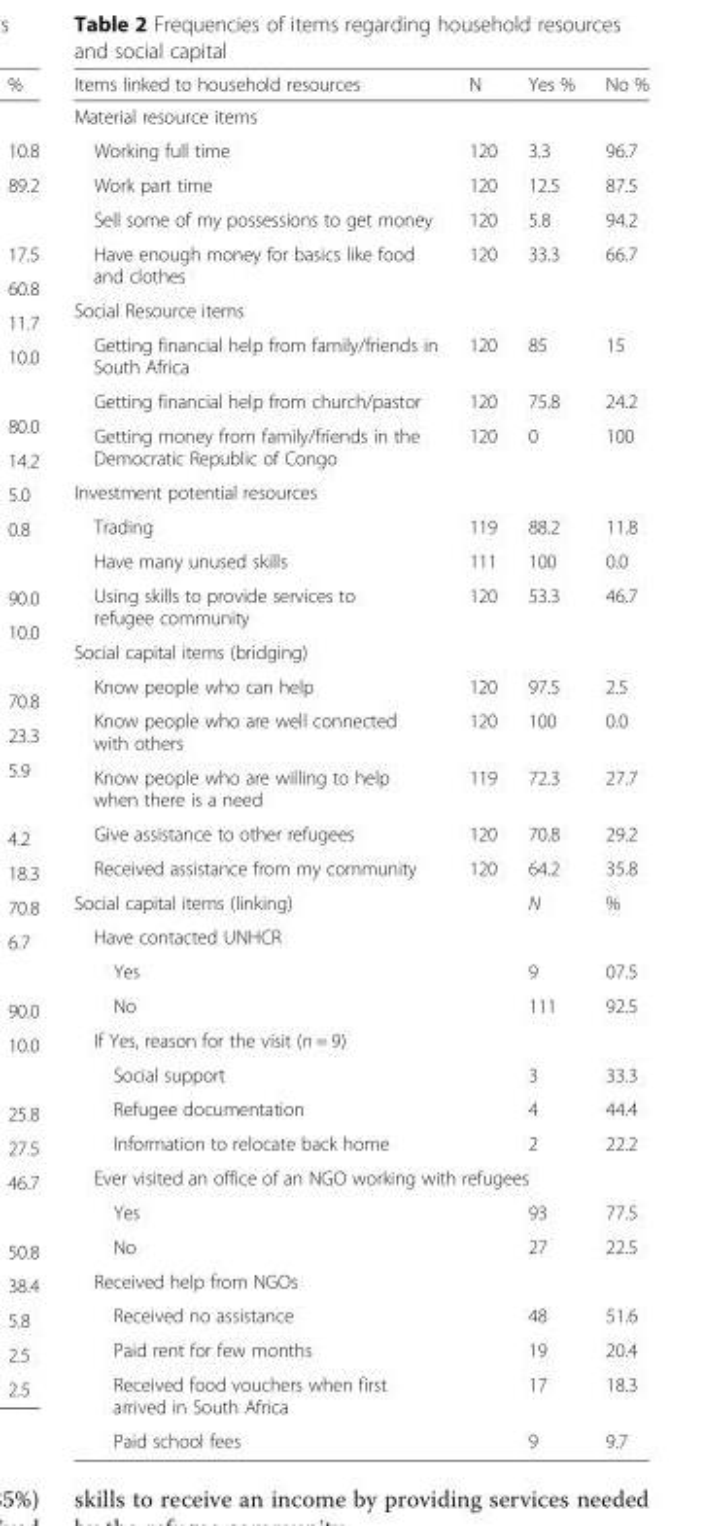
<table><thead><tr><td>Items linked to household resources</td><td>N</td><td>Yes %</td><td>No %</td></tr></thead><tbody><tr><td colspan="4">Material resource items</td></tr><tr><td>Working full time</td><td>120</td><td>3.3</td><td>96.7</td></tr><tr><td>Work part time</td><td>120</td><td>12.5</td><td>87.5</td></tr><tr><td>Sell some of my possessions to get money</td><td>120</td><td>5.8</td><td>94.2</td></tr><tr><td>Have enough money for basics like food and clothes</td><td>120</td><td>33.3</td><td>66.7</td></tr><tr><td colspan="4">Social Resource items</td></tr><tr><td>Getting financial help from family/friends in South Africa</td><td>120</td><td>85</td><td>15</td></tr><tr><td>Getting financial help from church/pastor</td><td>120</td><td>75.8</td><td>24.2</td></tr><tr><td>Getting money from family/friends in the Democratic Republic of Congo</td><td>120</td><td>0</td><td>100</td></tr><tr><td colspan="4">Investment potential resources</td></tr><tr><td>Trading</td><td>119</td><td>88.2</td><td>11.8</td></tr><tr><td>Have many unused skills</td><td>111</td><td>100</td><td>0.0</td></tr><tr><td>Using skills to provide services to refugee community</td><td>120</td><td>53.3</td><td>46.7</td></tr><tr><td colspan="4">Social capital items (bridging)</td></tr><tr><td>Know people who can help</td><td>120</td><td>97.5</td><td>2.5</td></tr><tr><td>Know people who are well connected with others</td><td>120</td><td>100</td><td>0.0</td></tr><tr><td>Know people who are willing to help when there is a need</td><td>119</td><td>72.3</td><td>27.7</td></tr><tr><td>Give assistance to other refugees</td><td>120</td><td>70.8</td><td>29.2</td></tr><tr><td>Received assistance from my community</td><td>120</td><td>64.2</td><td>35.8</td></tr><tr><td colspan="2">Social capital items (linking)</td><td>N</td><td>%</td></tr><tr><td colspan="4">Have contacted UNHCR</td></tr><tr><td colspan="2">Yes</td><td>9</td><td>07.5</td></tr><tr><td colspan="2">No</td><td>111</td><td>92.5</td></tr><tr><td colspan="4">If Yes, reason for the visit (n = 9)</td></tr><tr><td colspan="2">Social support</td><td>3</td><td>33.3</td></tr><tr><td colspan="2">Refugee documentation</td><td>4</td><td>44.4</td></tr><tr><td colspan="2">Information to relocate back home</td><td>2</td><td>22.2</td></tr><tr><td colspan="4">Ever visited an office of an NGO working with refugees</td></tr><tr><td colspan="2">Yes</td><td>93</td><td>77.5</td></tr><tr><td colspan="2">No</td><td>27</td><td>22.5</td></tr><tr><td colspan="4">Received help from NGOs</td></tr><tr><td colspan="2">Received no assistance</td><td>48</td><td>51.6</td></tr><tr><td colspan="2">Paid rent for few months</td><td>19</td><td>20.4</td></tr><tr><td colspan="2">Received food vouchers when first arrived in South Africa</td><td>17</td><td>18.3</td></tr><tr><td colspan="2">Paid school fees</td><td>9</td><td>9.7</td></tr></tbody></table>